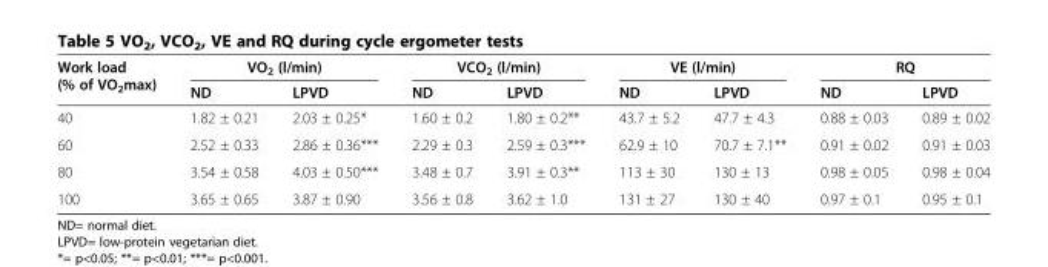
<table><thead><tr><td rowspan="2">Work load (% of VO<sub>2</sub>max)</td><td colspan="2">VO<sub>2</sub> (l/min)</td><td colspan="2">VCO<sub>2</sub> (l/min)</td><td colspan="2">VE (l/min)</td><td colspan="2">RQ</td></tr><tr><td>ND</td><td>LPVD</td><td>ND</td><td>LPVD</td><td>ND</td><td>LPVD</td><td>ND</td><td>LPVD</td></tr></thead><tbody><tr><td>40</td><td>1.82 ± 0.21</td><td>2.03 ± 0.25*</td><td>1.60 ± 0.2</td><td>1.80 ± 0.2**</td><td>43.7 ± 5.2</td><td>47.7 ± 4.3</td><td>0.88 ± 0.03</td><td>0.89 ± 0.02</td></tr><tr><td>60</td><td>2.52 ± 0.33</td><td>2.86 ± 0.36***</td><td>2.29 ± 0.3</td><td>2.59 ± 0.3***</td><td>62.9 ± 10</td><td>70.7 ± 7.1**</td><td>0.91 ± 0.02</td><td>0.91 ± 0.03</td></tr><tr><td>80</td><td>3.54 ± 0.58</td><td>4.03 ± 0.50***</td><td>3.48 ± 0.7</td><td>3.91 ± 0.3**</td><td>113 ± 30</td><td>130 ± 13</td><td>0.98 ± 0.05</td><td>0.98 ± 0.04</td></tr><tr><td>100</td><td>3.65 ± 0.65</td><td>3.87 ± 0.90</td><td>3.56 ± 0.8</td><td>3.62 ± 1.0</td><td>131 ± 27</td><td>130 ± 40</td><td>0.97 ± 0.1</td><td>0.95 ± 0.1</td></tr></tbody></table>